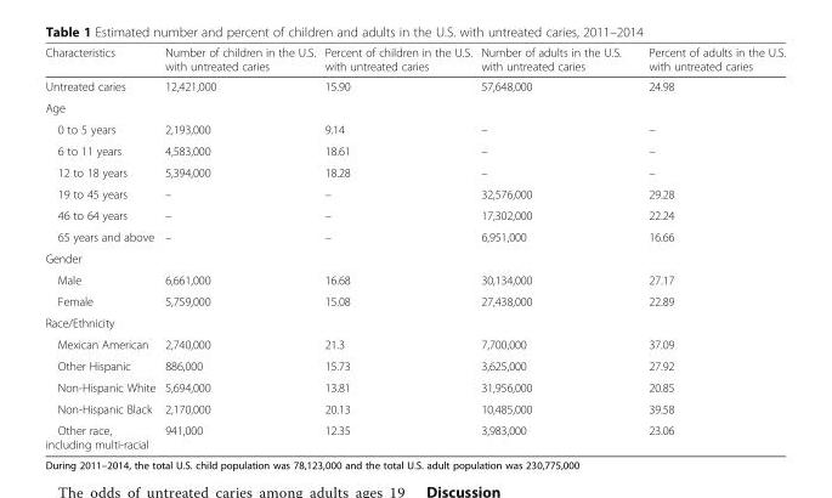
<table><thead><tr><td>Characteristics</td><td>Number of children in the U.S. with untreated caries</td><td>Percent of children in the U.S. with untreated caries</td><td>Number of adults in the U.S. with untreated caries</td><td>Percent of adults in the U.S. with untreated caries</td></tr></thead><tbody><tr><td>Untreated caries</td><td>12,421,000</td><td>15.90</td><td>57,648,000</td><td>24.98</td></tr><tr><td colspan="5">Age</td></tr><tr><td>0 to 5 years</td><td>2,193,000</td><td>9.14</td><td>–</td><td>–</td></tr><tr><td>6 to 11 years</td><td>4,583,000</td><td>18.61</td><td>–</td><td>–</td></tr><tr><td>12 to 18 years</td><td>5,394,000</td><td>18.28</td><td>–</td><td>–</td></tr><tr><td>19 to 45 years</td><td>–</td><td>–</td><td>32,576,000</td><td>29.28</td></tr><tr><td>46 to 64 years</td><td>–</td><td>–</td><td>17,302,000</td><td>22.24</td></tr><tr><td>65 years and above</td><td>–</td><td>–</td><td>6,951,000</td><td>16.66</td></tr><tr><td colspan="5">Gender</td></tr><tr><td>Male</td><td>6,661,000</td><td>16.68</td><td>30,134,000</td><td>27.17</td></tr><tr><td>Female</td><td>5,759,000</td><td>15.08</td><td>27,438,000</td><td>22.89</td></tr><tr><td colspan="5">Race/Ethnicity</td></tr><tr><td>Mexican American</td><td>2,740,000</td><td>21.3</td><td>7,700,000</td><td>37.09</td></tr><tr><td>Other Hispanic</td><td>886,000</td><td>15.73</td><td>3,625,000</td><td>27.92</td></tr><tr><td>Non-Hispanic White</td><td>5,694,000</td><td>13.81</td><td>31,956,000</td><td>20.85</td></tr><tr><td>Non-Hispanic Black</td><td>2,170,000</td><td>20.13</td><td>10,485,000</td><td>39.58</td></tr><tr><td>Other race, including multi-racial</td><td>941,000</td><td>12.35</td><td>3,983,000</td><td>23.06</td></tr></tbody></table>